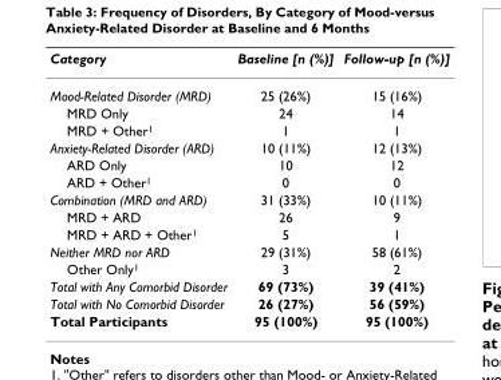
<table><thead><tr><td>Category</td><td>Baseline [n (%)]</td><td>Follow-up [n (%)]</td></tr></thead><tbody><tr><td>Mood-Related Disorder (MRD)</td><td>25 (26%)</td><td>15 (16%)</td></tr><tr><td>MRD Only</td><td>24</td><td>14</td></tr><tr><td>MRD + Other<sup>1</sup></td><td>1</td><td>1</td></tr><tr><td>Anxiety-Related Disorder (ARD)</td><td>10 (11%)</td><td>12 (13%)</td></tr><tr><td>ARD Only</td><td>10</td><td>12</td></tr><tr><td>ARD + Other<sup>1</sup></td><td>0</td><td>0</td></tr><tr><td>Combination (MRD and ARD)</td><td>31 (33%)</td><td>10 (11%)</td></tr><tr><td>MRD + ARD</td><td>26</td><td>9</td></tr><tr><td>MRD + ARD + Other<sup>1</sup></td><td>5</td><td>1</td></tr><tr><td>Neither MRD nor ARD</td><td>29 (31%)</td><td>58 (61%)</td></tr><tr><td>Other Only<sup>1</sup></td><td>3</td><td>2</td></tr><tr><td>Total with Any Comorbid Disorder</td><td>69 (73%)</td><td>39 (41%)</td></tr><tr><td>Total with No Comorbid Disorder</td><td>26 (27%)</td><td>56 (59%)</td></tr><tr><td>Total Participants</td><td>95 (100%)</td><td>95 (100%)</td></tr></tbody></table>